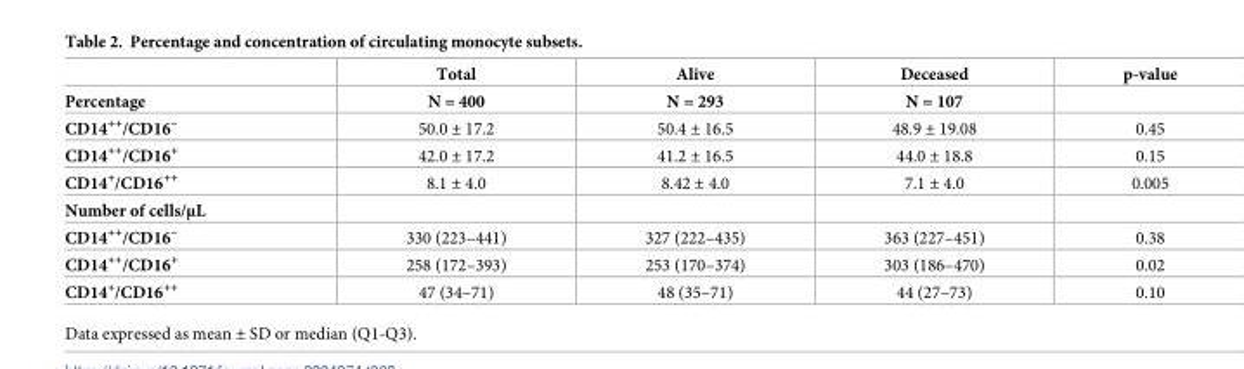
<table><thead><tr><td rowspan="2">Percentage</td><td rowspan="2">Total N = 400</td><td rowspan="2">Alive N = 293</td><td rowspan="2">Deceased N = 107</td><td rowspan="2">p-value</td></tr><tr></tr></thead><tbody><tr><td>CD14<sup>++</sup>/CD16<sup>–</sup></td><td>50.0 ± 17.2</td><td>50.4 ± 16.5</td><td>48.9 ± 19.08</td><td>0.45</td></tr><tr><td>CD14<sup>++</sup>/CD16<sup>+</sup></td><td>42.0 ± 17.2</td><td>41.2 ± 16.5</td><td>44.0 ± 18.8</td><td>0.15</td></tr><tr><td>CD14<sup>+</sup>/CD16<sup>++</sup></td><td>8.1 ± 4.0</td><td>8.42 ± 4.0</td><td>7.1 ± 4.0</td><td>0.005</td></tr><tr><td colspan="5">Number of cells/μL</td></tr><tr><td>CD14<sup>++</sup>/CD16<sup>–</sup></td><td>330 (223–441)</td><td>327 (222–435)</td><td>363 (227–451)</td><td>0.38</td></tr><tr><td>CD14<sup>++</sup>/CD16<sup>+</sup></td><td>258 (172–393)</td><td>253 (170–374)</td><td>303 (186–470)</td><td>0.02</td></tr><tr><td>CD14<sup>+</sup>/CD16<sup>++</sup></td><td>47 (34–71)</td><td>48 (35–71)</td><td>44 (27–73)</td><td>0.10</td></tr></tbody></table>